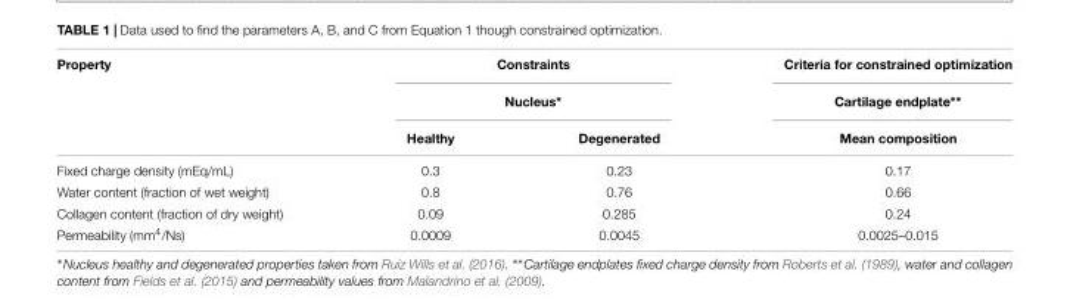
<table><thead><tr><td rowspan="3">Property</td><td rowspan="2" colspan="2">Constraints Nucleus∗</td><td rowspan="3">Criteria for constrained optimization Cartilage endplate∗∗ Mean composition</td></tr><tr></tr><tr><td>Healthy</td><td>Degenerated</td></tr></thead><tbody><tr><td>Fixed charge density (mEq/mL)</td><td>0.3</td><td>0.23</td><td>0.17</td></tr><tr><td>Water content (fraction of wet weight)</td><td>0.8</td><td>0.76</td><td>0.66</td></tr><tr><td>Collagen content (fraction of dry weight)</td><td>0.09</td><td>0.285</td><td>0.24</td></tr><tr><td>Permeability (mm<sup>4</sup>/Ns)</td><td>0.0009</td><td>0.0045</td><td>0.0025–0.015</td></tr></tbody></table>